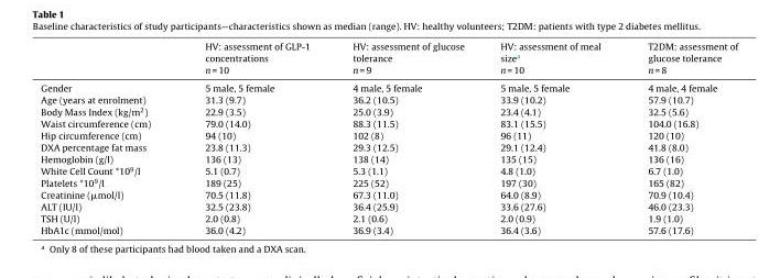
<table><thead><tr><td></td><td>HV: assessment of GLP-1 concentrations n = 10</td><td>HV: assessment of glucose tolerance n = 9</td><td>HV: assessment of meal size<sup>a</sup> n = 10</td><td>T2DM: assessment of glucose tolerance n = 8</td></tr></thead><tbody><tr><td>Gender</td><td>5 male, 5 female</td><td>4 male, 5 female</td><td>5 male, 5 female</td><td>4 male, 4 female</td></tr><tr><td>Age (years at enrolment)</td><td>31.3 (9.7)</td><td>36.2 (10.5)</td><td>33.9 (10.2)</td><td>57.9 (10.7)</td></tr><tr><td>Body Mass Index (kg/m<sup>2</sup>)</td><td>22.9 (3.5)</td><td>25.0 (3.9)</td><td>23.4 (4.1)</td><td>32.5 (5.6)</td></tr><tr><td>Waist circumference (cm)</td><td>79.0 (14.0)</td><td>88.3 (11.5)</td><td>83.1 (15.5)</td><td>104.0 (16.8)</td></tr><tr><td>Hip circumference (cm)</td><td>94 (10)</td><td>102 (8)</td><td>96 (11)</td><td>120 (10)</td></tr><tr><td>DXA percentage fat mass</td><td>23.8 (11.3)</td><td>29.3 (12.5)</td><td>29.1 (12.4)</td><td>41.8 (8.0)</td></tr><tr><td>Hemoglobin (g/l)</td><td>136 (13)</td><td>138 (14)</td><td>135 (15)</td><td>136 (16)</td></tr><tr><td>White Cell Count *10<sup>9</sup>/l</td><td>5.1 (0.7)</td><td>5.3 (1.1)</td><td>4.8 (1.0)</td><td>6.7 (1.0)</td></tr><tr><td>Platelets *10<sup>9</sup>/l</td><td>189 (25)</td><td>225 (52)</td><td>197 (30)</td><td>165 (82)</td></tr><tr><td>Creatinine (μmol/l)</td><td>70.5 (11.8)</td><td>67.3 (11.0)</td><td>64.0 (8.9)</td><td>70.9 (10.4)</td></tr><tr><td>ALT (IU/l)</td><td>32.5 (23.8)</td><td>36.4 (25.9)</td><td>33.6 (27.6)</td><td>46.0 (23.3)</td></tr><tr><td>TSH (U/l)</td><td>2.0 (0.8)</td><td>2.1 (0.6)</td><td>2.0 (0.9)</td><td>1.9 (1.0)</td></tr><tr><td>HbA1c (mmol/mol)</td><td>36.0 (4.2)</td><td>36.9 (3.4)</td><td>36.4 (3.6)</td><td>57.6 (17.6)</td></tr></tbody></table>